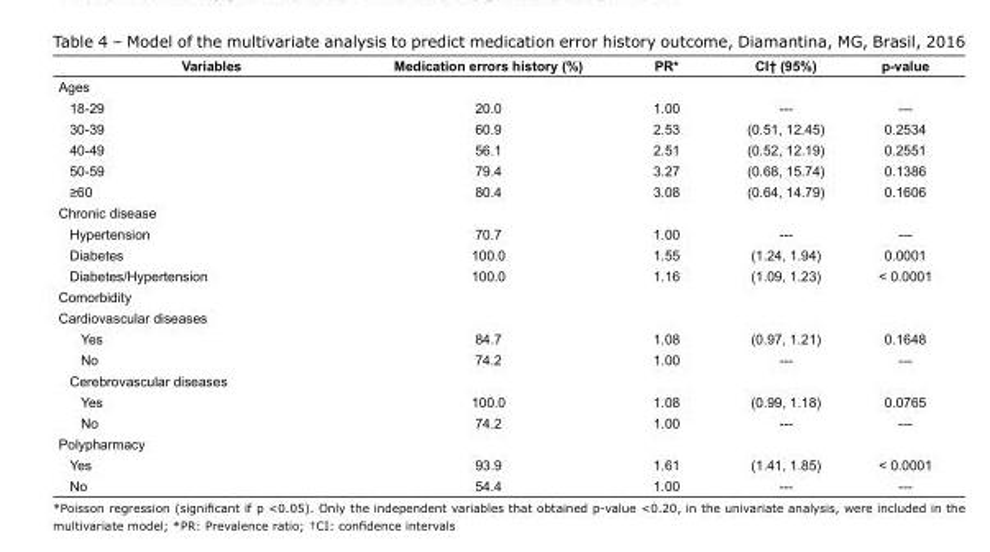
<table><tbody><tr><td>Variables</td><td>Medication errors history (%)</td><td>PR*</td><td>CI† (95%)</td><td>p-value</td></tr><tr><td colspan="5">Ages</td></tr><tr><td>18-29</td><td>20.0</td><td>1.00</td><td>---</td><td>---</td></tr><tr><td>30-39</td><td>60.9</td><td>2.53</td><td>(0.51, 12.45)</td><td>0.2534</td></tr><tr><td>40-49</td><td>56.1</td><td>2.51</td><td>(0.52, 12.19)</td><td>0.2551</td></tr><tr><td>50-59</td><td>79.4</td><td>3.27</td><td>(0.68, 15.74)</td><td>0.1386</td></tr><tr><td>≥60</td><td>80.4</td><td>3.08</td><td>(0.64, 14.79)</td><td>0.1606</td></tr><tr><td colspan="5">Chronic disease</td></tr><tr><td>Hypertension</td><td>70.7</td><td>1.00</td><td>---</td><td>---</td></tr><tr><td>Diabetes</td><td>100.0</td><td>1.55</td><td>(1.24, 1.94)</td><td>0.0001</td></tr><tr><td>Diabetes/Hypertension</td><td>100.0</td><td>1.16</td><td>(1.09, 1.23)</td><td>&lt; 0.0001</td></tr><tr><td colspan="5">Comorbidity</td></tr><tr><td colspan="5">Cardiovascular diseases</td></tr><tr><td>Yes</td><td>84.7</td><td>1.08</td><td>(0.97, 1.21)</td><td>0.1648</td></tr><tr><td>No</td><td>74.2</td><td>1.00</td><td>---</td><td>---</td></tr><tr><td colspan="5">Cerebrovascular diseases</td></tr><tr><td>Yes</td><td>100.0</td><td>1.08</td><td>(0.99, 1.18)</td><td>0.0765</td></tr><tr><td>No</td><td>74.2</td><td>1.00</td><td>---</td><td>---</td></tr><tr><td colspan="5">Polypharmacy</td></tr><tr><td>Yes</td><td>93.9</td><td>1.61</td><td>(1.41, 1.85)</td><td>&lt; 0.0001</td></tr><tr><td>No</td><td>54.4</td><td>1.00</td><td>---</td><td>---</td></tr></tbody></table>